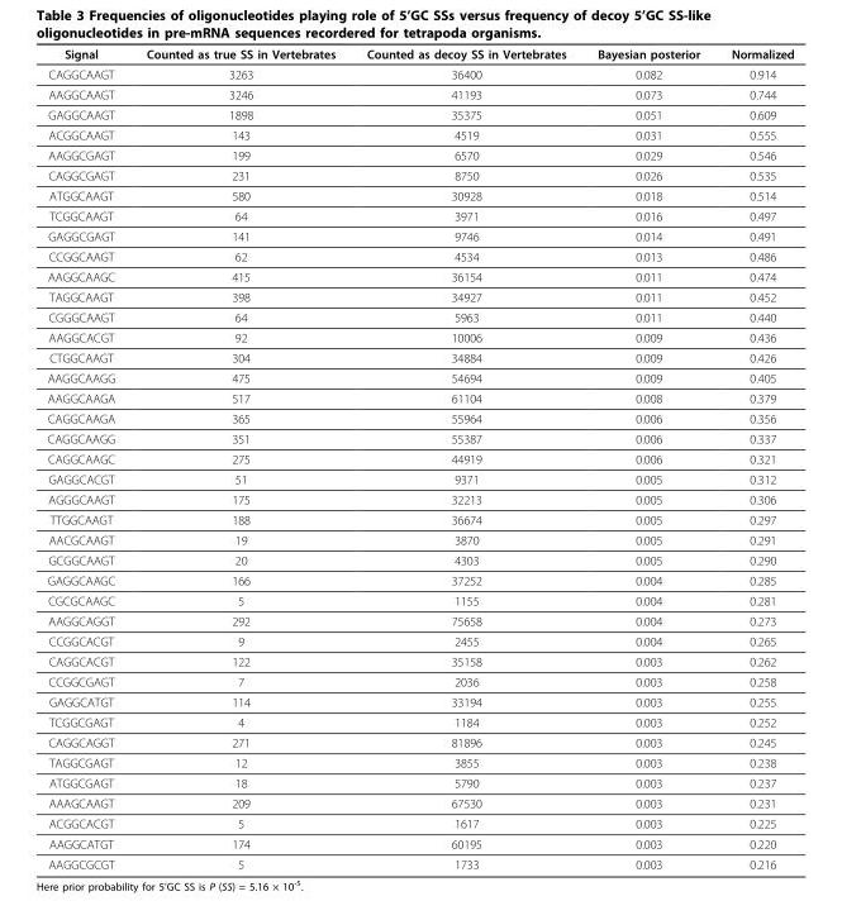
<table><thead><tr><td>Signal</td><td>Counted as true SS in Vertebrates</td><td>Counted as decoy SS in Vertebrates</td><td>Bayesian posterior</td><td>Normalized</td></tr></thead><tbody><tr><td>CAGGCAAGT</td><td>3263</td><td>36400</td><td>0.082</td><td>0.914</td></tr><tr><td>AAGGCAAGT</td><td>3246</td><td>41193</td><td>0.073</td><td>0.744</td></tr><tr><td>GAGGCAAGT</td><td>1898</td><td>35375</td><td>0.051</td><td>0.609</td></tr><tr><td>ACGGCAAGT</td><td>143</td><td>4519</td><td>0.031</td><td>0.555</td></tr><tr><td>AAGGCGAGT</td><td>199</td><td>6570</td><td>0.029</td><td>0.546</td></tr><tr><td>CAGGCGAGT</td><td>231</td><td>8750</td><td>0.026</td><td>0.535</td></tr><tr><td>ATGGCAAGT</td><td>580</td><td>30928</td><td>0.018</td><td>0.514</td></tr><tr><td>TCGGCAAGT</td><td>64</td><td>3971</td><td>0.016</td><td>0.497</td></tr><tr><td>GAGGCGAGT</td><td>141</td><td>9746</td><td>0.014</td><td>0.491</td></tr><tr><td>CCGGCAAGT</td><td>62</td><td>4534</td><td>0.013</td><td>0.486</td></tr><tr><td>AAGGCAAGC</td><td>415</td><td>36154</td><td>0.011</td><td>0.474</td></tr><tr><td>TAGGCAAGT</td><td>398</td><td>34927</td><td>0.011</td><td>0.452</td></tr><tr><td>CGGGCAAGT</td><td>64</td><td>5963</td><td>0.011</td><td>0.440</td></tr><tr><td>AAGGCACGT</td><td>92</td><td>10006</td><td>0.009</td><td>0.436</td></tr><tr><td>CTGGCAAGT</td><td>304</td><td>34884</td><td>0.009</td><td>0.426</td></tr><tr><td>AAGGCAAGG</td><td>475</td><td>54694</td><td>0.009</td><td>0.405</td></tr><tr><td>AAGGCAAGA</td><td>517</td><td>61104</td><td>0.008</td><td>0.379</td></tr><tr><td>CAGGCAAGA</td><td>365</td><td>55964</td><td>0.006</td><td>0.356</td></tr><tr><td>CAGGCAAGG</td><td>351</td><td>55387</td><td>0.006</td><td>0.337</td></tr><tr><td>CAGGCAAGC</td><td>275</td><td>44919</td><td>0.006</td><td>0.321</td></tr><tr><td>GAGGCACGT</td><td>51</td><td>9371</td><td>0.005</td><td>0.312</td></tr><tr><td>AGGGCAAGT</td><td>175</td><td>32213</td><td>0.005</td><td>0.306</td></tr><tr><td>TTGGCAAGT</td><td>188</td><td>36674</td><td>0.005</td><td>0.297</td></tr><tr><td>AACGCAAGT</td><td>19</td><td>3870</td><td>0.005</td><td>0.291</td></tr><tr><td>GCGGCAAGT</td><td>20</td><td>4303</td><td>0.005</td><td>0.290</td></tr><tr><td>GAGGCAAGC</td><td>166</td><td>37252</td><td>0.004</td><td>0.285</td></tr><tr><td>CGCGCAAGC</td><td>5</td><td>1155</td><td>0.004</td><td>0.281</td></tr><tr><td>AAGGCAGGT</td><td>292</td><td>75658</td><td>0.004</td><td>0.273</td></tr><tr><td>CCGGCACGT</td><td>9</td><td>2455</td><td>0.004</td><td>0.265</td></tr><tr><td>CAGGCACGT</td><td>122</td><td>35158</td><td>0.003</td><td>0.262</td></tr><tr><td>CCGGCGAGT</td><td>7</td><td>2036</td><td>0.003</td><td>0.258</td></tr><tr><td>GAGGCATGT</td><td>114</td><td>33194</td><td>0.003</td><td>0.255</td></tr><tr><td>TCGGCGAGT</td><td>4</td><td>1184</td><td>0.003</td><td>0.252</td></tr><tr><td>CAGGCAGGT</td><td>271</td><td>81896</td><td>0.003</td><td>0.245</td></tr><tr><td>TAGGCGAGT</td><td>12</td><td>3855</td><td>0.003</td><td>0.238</td></tr><tr><td>ATGGCGAGT</td><td>18</td><td>5790</td><td>0.003</td><td>0.237</td></tr><tr><td>AAAGCAAGT</td><td>209</td><td>67530</td><td>0.003</td><td>0.231</td></tr><tr><td>ACGGCACGT</td><td>5</td><td>1617</td><td>0.003</td><td>0.225</td></tr><tr><td>AAGGCATGT</td><td>174</td><td>60195</td><td>0.003</td><td>0.220</td></tr><tr><td>AAGGCGCGT</td><td>5</td><td>1733</td><td>0.003</td><td>0.216</td></tr></tbody></table>